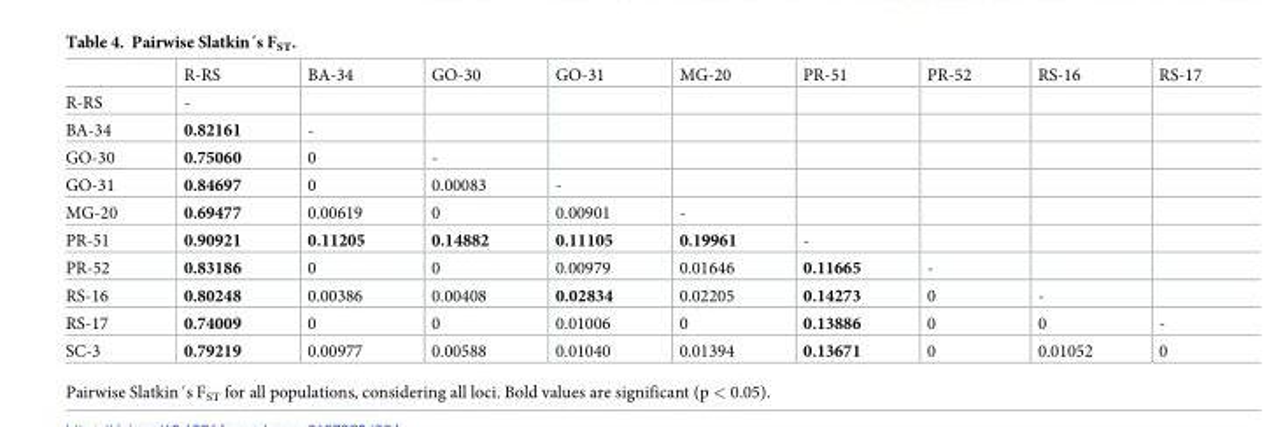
<table><thead><tr><td></td><td>R-RS</td><td>BA-34</td><td>GO-30</td><td>GO-31</td><td>MG-20</td><td>PR-51</td><td>PR-52</td><td>RS-16</td><td>RS-17</td></tr></thead><tbody><tr><td>R-RS</td><td>-</td><td></td><td></td><td></td><td></td><td></td><td></td><td></td><td></td></tr><tr><td>BA-34</td><td>0.82161</td><td>-</td><td></td><td></td><td></td><td></td><td></td><td></td><td></td></tr><tr><td>GO-30</td><td>0.75060</td><td>0</td><td>-</td><td></td><td></td><td></td><td></td><td></td><td></td></tr><tr><td>GO-31</td><td>0.84697</td><td>0</td><td>0.00083</td><td>-</td><td></td><td></td><td></td><td></td><td></td></tr><tr><td>MG-20</td><td>0.69477</td><td>0.00619</td><td>0</td><td>0.00901</td><td>-</td><td></td><td></td><td></td><td></td></tr><tr><td>PR-51</td><td>0.90921</td><td>0.11205</td><td>0.14882</td><td>0.11105</td><td>0.19961</td><td>-</td><td></td><td></td><td></td></tr><tr><td>PR-52</td><td>0.83186</td><td>0</td><td>0</td><td>0.00979</td><td>0.01646</td><td>0.11665</td><td>-</td><td></td><td></td></tr><tr><td>RS-16</td><td>0.80248</td><td>0.00386</td><td>0.00408</td><td>0.02834</td><td>0.02205</td><td>0.14273</td><td>0</td><td>-</td><td></td></tr><tr><td>RS-17</td><td>0.74009</td><td>0</td><td>0</td><td>0.01006</td><td>0</td><td>0.13886</td><td>0</td><td>0</td><td>-</td></tr><tr><td>SC-3</td><td>0.79219</td><td>0.00977</td><td>0.00588</td><td>0.01040</td><td>0.01394</td><td>0.13671</td><td>0</td><td>0.01052</td><td>0</td></tr></tbody></table>